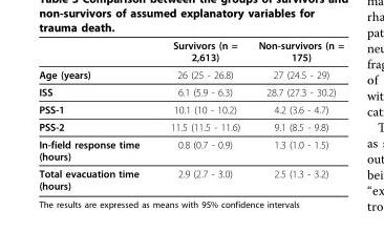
<table><thead><tr><td></td><td>Survivors (n = 2,613)</td><td>Non-survivors (n = 175)</td></tr></thead><tbody><tr><td>Age (years)</td><td>26 (25 - 26.8)</td><td>27 (24.5 - 29)</td></tr><tr><td>ISS</td><td>6.1 (5.9 - 6.3)</td><td>28.7 (27.3 - 30.2)</td></tr><tr><td>PSS-1</td><td>10.1 (10 - 10.2)</td><td>4.2 (3.6 - 4.7)</td></tr><tr><td>PSS-2</td><td>11.5 (11.5 - 11.6)</td><td>9.1 (8.5 - 9.8)</td></tr><tr><td>In-field response time (hours)</td><td>0.8 (0.7 - 0.9)</td><td>1.3 (1.0 - 1.5)</td></tr><tr><td>Total evacuation time (hours)</td><td>2.9 (2.7 - 3.0)</td><td>2.5 (1.3 - 3.2)</td></tr></tbody></table>